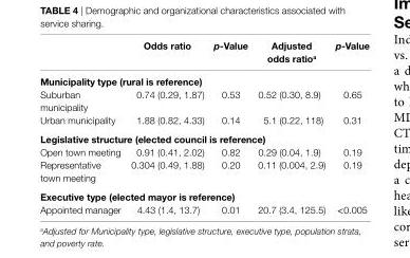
<table><thead><tr><td></td><td>Odds ratio</td><td>p-Value</td><td>adjusted odds ratio<sup>a</sup></td><td>p-Value</td></tr></thead><tbody><tr><td colspan="5">Municipality type (rural is reference)</td></tr><tr><td>Suburban municipality</td><td>0.74 (0.29, 1.87)</td><td>0.53</td><td>0.52 (0.30, 8.9)</td><td>0.65</td></tr><tr><td>Urban municipality</td><td>1.88 (0.82, 4.33)</td><td>0.14</td><td>5.1 (0.22, 118)</td><td>0.31</td></tr><tr><td colspan="5">legislative structure (elected council is reference)</td></tr><tr><td>Open town meeting</td><td>0.91 (0.41, 2.02)</td><td>0.82</td><td>0.29 (0.04, 1.9)</td><td>0.19</td></tr><tr><td>Representative town meeting</td><td>0.304 (0.49, 1.88)</td><td>0.20</td><td>0.11 (0.004, 2.9)</td><td>0.19</td></tr><tr><td colspan="5">executive type (elected mayor is reference)</td></tr><tr><td>Appointed manager</td><td>4.43 (1.4, 13.7)</td><td>0.01</td><td>20.7 (3.4, 125.5)</td><td>&lt;0.005</td></tr></tbody></table>